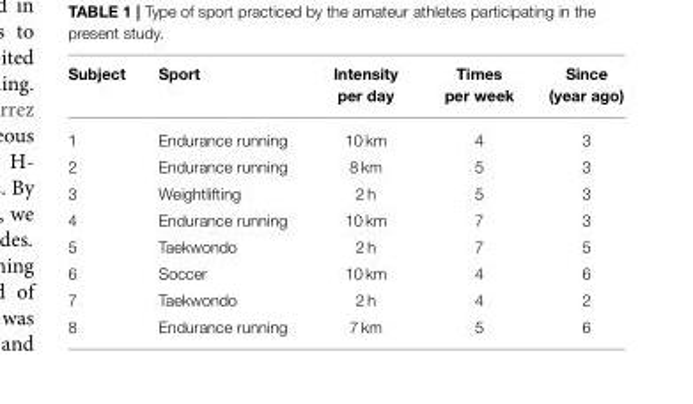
<table><thead><tr><td>Subject</td><td>Sport</td><td>Intensity per day</td><td>Times per week</td><td>Since (year ago)</td></tr></thead><tbody><tr><td>1</td><td>Endurance running</td><td>10 km</td><td>4</td><td>3</td></tr><tr><td>2</td><td>Endurance running</td><td>8 km</td><td>5</td><td>3</td></tr><tr><td>3</td><td>Weightlifting</td><td>2 h</td><td>5</td><td>3</td></tr><tr><td>4</td><td>Endurance running</td><td>10 km</td><td>7</td><td>3</td></tr><tr><td>5</td><td>Taekwondo</td><td>2 h</td><td>7</td><td>5</td></tr><tr><td>6</td><td>Soccer</td><td>10 km</td><td>4</td><td>6</td></tr><tr><td>7</td><td>Taekwondo</td><td>2 h</td><td>4</td><td>2</td></tr><tr><td>8</td><td>Endurance running</td><td>7 km</td><td>5</td><td>6</td></tr></tbody></table>